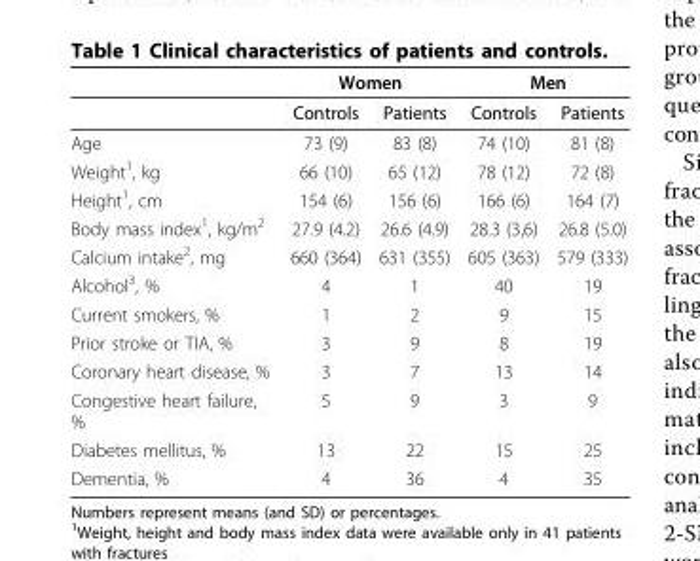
<table><thead><tr><td rowspan="2"></td><td colspan="2">Women</td><td colspan="2">Men</td></tr><tr><td>Controls</td><td>Patients</td><td>Controls</td><td>Patients</td></tr></thead><tbody><tr><td>Age</td><td>73 (9)</td><td>83 (8)</td><td>74 (10)</td><td>81 (8)</td></tr><tr><td>Weight<sup>1</sup>, kg</td><td>66 (10)</td><td>65 (12)</td><td>78 (12)</td><td>72 (8)</td></tr><tr><td>Height<sup>1</sup>, cm</td><td>154 (6)</td><td>156 (6)</td><td>166 (6)</td><td>164 (7)</td></tr><tr><td>Body mass index<sup>1</sup>, kg/m<sup>2</sup></td><td>27.9 (4.2)</td><td>26.6 (4.9)</td><td>28.3 (3,6)</td><td>26.8 (5.0)</td></tr><tr><td>Calcium intake<sup>2</sup>, mg</td><td>660 (364)</td><td>631 (355)</td><td>605 (363)</td><td>579 (333)</td></tr><tr><td>Alcohol<sup>3</sup>, %</td><td>4</td><td>1</td><td>40</td><td>19</td></tr><tr><td>Current smokers, %</td><td>1</td><td>2</td><td>9</td><td>15</td></tr><tr><td>Prior stroke or TIA, %</td><td>3</td><td>9</td><td>8</td><td>19</td></tr><tr><td>Coronary heart disease, %</td><td>3</td><td>7</td><td>13</td><td>14</td></tr><tr><td>Congestive heart failure, %</td><td>5</td><td>9</td><td>3</td><td>9</td></tr><tr><td>Diabetes mellitus, %</td><td>13</td><td>22</td><td>15</td><td>25</td></tr><tr><td>Dementia, %</td><td>4</td><td>36</td><td>4</td><td>35</td></tr></tbody></table>